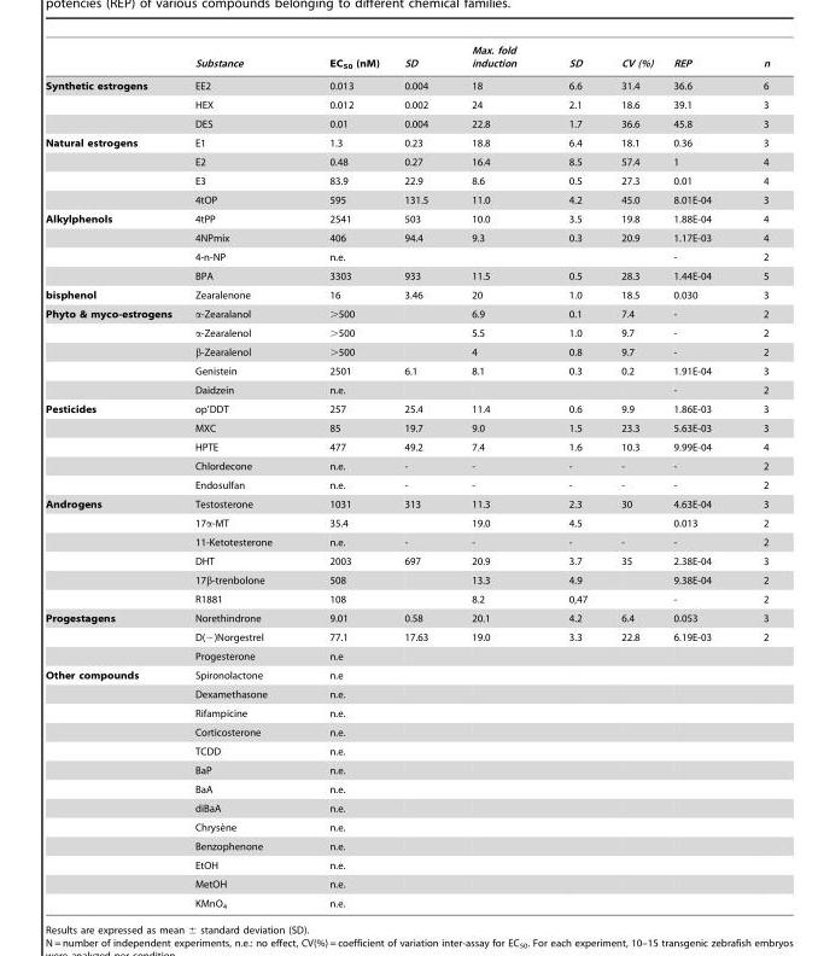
<table><thead><tr><td></td><td>Substance</td><td>EC<sub>50</sub> (nM)</td><td>SD</td><td>Max. fold induction</td><td>SD</td><td>CV (%)</td><td>REP</td><td>n</td></tr></thead><tbody><tr><td rowspan="3">Synthetic estrogens</td><td>EE2</td><td>0.013</td><td>0.004</td><td>18</td><td>6.6</td><td>31.4</td><td>36.6</td><td>6</td></tr><tr><td>HEX</td><td>0.012</td><td>0.002</td><td>24</td><td>2.1</td><td>18.6</td><td>39.1</td><td>3</td></tr><tr><td>DES</td><td>0.01</td><td>0.004</td><td>22.8</td><td>1.7</td><td>36.6</td><td>45.8</td><td>3</td></tr><tr><td rowspan="4">Natural estrogens</td><td>E1</td><td>1.3</td><td>0.23</td><td>18.8</td><td>6.4</td><td>18.1</td><td>0.36</td><td>3</td></tr><tr><td>E2</td><td>0.48</td><td>0.27</td><td>16.4</td><td>8.5</td><td>57.4</td><td>1</td><td>4</td></tr><tr><td>E3</td><td>83.9</td><td>22.9</td><td>8.6</td><td>0.5</td><td>27.3</td><td>0.01</td><td>4</td></tr><tr><td>4tOP</td><td>595</td><td>131.5</td><td>11.0</td><td>4.2</td><td>45.0</td><td>8.01E-04</td><td>3</td></tr><tr><td rowspan="4">Alkylphenols</td><td>4tPP</td><td>2541</td><td>503</td><td>10.0</td><td>3.5</td><td>19.8</td><td>1.88E-04</td><td>4</td></tr><tr><td>4NPmix</td><td>406</td><td>94.4</td><td>9.3</td><td>0.3</td><td>20.9</td><td>1.17E-03</td><td>4</td></tr><tr><td>4-n-NP</td><td>n.e.</td><td></td><td></td><td></td><td></td><td>-</td><td>2</td></tr><tr><td>BPA</td><td>3303</td><td>933</td><td>11.5</td><td>0.5</td><td>28.3</td><td>1.44E-04</td><td>5</td></tr><tr><td>bisphenol</td><td>Zearalenone</td><td>16</td><td>3.46</td><td>20</td><td>1.0</td><td>18.5</td><td>0.030</td><td>3</td></tr><tr><td rowspan="5">Phyto &amp; myco-estrogens</td><td>α-Zearalanol</td><td>&gt;500</td><td></td><td>6.9</td><td>0.1</td><td>7.4</td><td>-</td><td>2</td></tr><tr><td>α-Zearalenol</td><td>&gt;500</td><td></td><td>5.5</td><td>1.0</td><td>9.7</td><td>-</td><td>2</td></tr><tr><td>β-Zearalenol</td><td>&gt;500</td><td></td><td>4</td><td>0.8</td><td>9.7</td><td>-</td><td>2</td></tr><tr><td>Genistein</td><td>2501</td><td>6.1</td><td>8.1</td><td>0.3</td><td>0.2</td><td>1.91E-04</td><td>3</td></tr><tr><td>Daidzein</td><td>n.e.</td><td></td><td></td><td></td><td></td><td>-</td><td>2</td></tr><tr><td rowspan="5">Pesticides</td><td>op’DDT</td><td>257</td><td>25.4</td><td>11.4</td><td>0.6</td><td>9.9</td><td>1.86E-03</td><td>3</td></tr><tr><td>MXC</td><td>85</td><td>19.7</td><td>9.0</td><td>1.5</td><td>23.3</td><td>5.63E-03</td><td>3</td></tr><tr><td>HPTE</td><td>477</td><td>49.2</td><td>7.4</td><td>1.6</td><td>10.3</td><td>9.99E-04</td><td>4</td></tr><tr><td>Chlordecone</td><td>n.e.</td><td>-</td><td>-</td><td>-</td><td>-</td><td>-</td><td>2</td></tr><tr><td>Endosulfan</td><td>n.e.</td><td>-</td><td>-</td><td>-</td><td>-</td><td>-</td><td>2</td></tr><tr><td rowspan="6">Androgens</td><td>Testosterone</td><td>1031</td><td>313</td><td>11.3</td><td>2.3</td><td>30</td><td>4.63E-04</td><td>3</td></tr><tr><td>17α-MT</td><td>35.4</td><td></td><td>19.0</td><td>4.5</td><td></td><td>0.013</td><td>2</td></tr><tr><td>11-Ketotesterone</td><td>n.e.</td><td>-</td><td>-</td><td>-</td><td>-</td><td>-</td><td>2</td></tr><tr><td>DHT</td><td>2003</td><td>697</td><td>20.9</td><td>3.7</td><td>35</td><td>2.38E-04</td><td>3</td></tr><tr><td>17β-trenbolone</td><td>508</td><td></td><td>13.3</td><td>4.9</td><td></td><td>9.38E-04</td><td>2</td></tr><tr><td>R1881</td><td>108</td><td></td><td>8.2</td><td>0,47</td><td></td><td>-</td><td>2</td></tr><tr><td rowspan="3">Progestagens</td><td>Norethindrone</td><td>9.01</td><td>0.58</td><td>20.1</td><td>4.2</td><td>6.4</td><td>0.053</td><td>3</td></tr><tr><td>D(−)Norgestrel</td><td>77.1</td><td>17.63</td><td>19.0</td><td>3.3</td><td>22.8</td><td>6.19E-03</td><td>2</td></tr><tr><td>Progesterone</td><td>n.e</td><td></td><td></td><td></td><td></td><td></td><td></td></tr><tr><td rowspan="13">Other compounds</td><td>Spironolactone</td><td>n.e</td><td></td><td></td><td></td><td></td><td></td><td></td></tr><tr><td>Dexamethasone</td><td>n.e.</td><td></td><td></td><td></td><td></td><td></td><td></td></tr><tr><td>Rifampicine</td><td>n.e.</td><td></td><td></td><td></td><td></td><td></td><td></td></tr><tr><td>Corticosterone</td><td>n.e.</td><td></td><td></td><td></td><td></td><td></td><td></td></tr><tr><td>TCDD</td><td>n.e.</td><td></td><td></td><td></td><td></td><td></td><td></td></tr><tr><td>BaP</td><td>n.e.</td><td></td><td></td><td></td><td></td><td></td><td></td></tr><tr><td>BaA</td><td>n.e.</td><td></td><td></td><td></td><td></td><td></td><td></td></tr><tr><td>diBaA</td><td>n.e.</td><td></td><td></td><td></td><td></td><td></td><td></td></tr><tr><td>Chryse`ne</td><td>n.e.</td><td></td><td></td><td></td><td></td><td></td><td></td></tr><tr><td>Benzophenone</td><td>n.e.</td><td></td><td></td><td></td><td></td><td></td><td></td></tr><tr><td>EtOH</td><td>n.e.</td><td></td><td></td><td></td><td></td><td></td><td></td></tr><tr><td>MetOH</td><td>n.e.</td><td></td><td></td><td></td><td></td><td></td><td></td></tr><tr><td>KMnO<sub>4</sub></td><td>n.e.</td><td></td><td></td><td></td><td></td><td></td><td></td></tr></tbody></table>